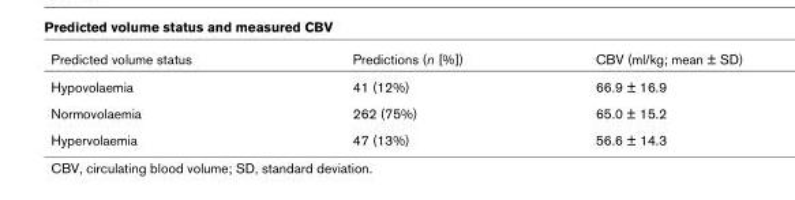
<table><thead><tr><td>Predicted volume status</td><td>Predictions (n [%])</td><td>CBV (ml/kg; mean ± SD)</td></tr></thead><tbody><tr><td>Hypovolaemia</td><td>41 (12%)</td><td>66.9 ± 16.9</td></tr><tr><td>Normovolaemia</td><td>262 (75%)</td><td>65.0 ± 15.2</td></tr><tr><td>Hypervolaemia</td><td>47 (13%)</td><td>56.6 ± 14.3</td></tr></tbody></table>